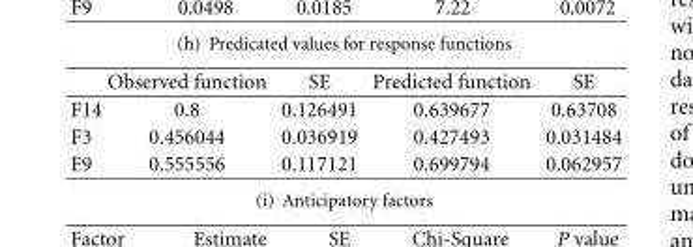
<table><thead><tr><td></td><td>Observed function</td><td>SE</td><td>Predicted function</td><td>SE</td></tr></thead><tbody><tr><td>F14</td><td>0.8</td><td>0.126491</td><td>0.639677</td><td>0.63708</td></tr><tr><td>F3</td><td>0.456044</td><td>0.036919</td><td>0.427493</td><td>0.031484</td></tr><tr><td>F9</td><td>0.555556</td><td>0.117121</td><td>0.699794</td><td>0.062957</td></tr></tbody></table>